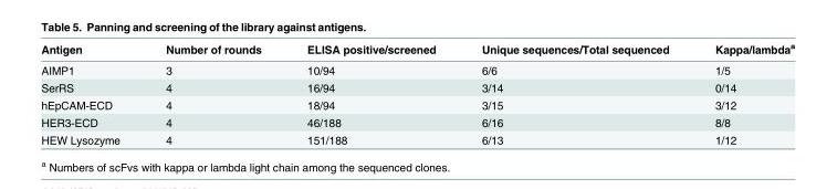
<table><thead><tr><td>Antigen</td><td>Number of rounds</td><td>ELISA positive/screened</td><td>Unique sequences/Total sequenced</td><td>Kappa/lambda<sup>a</sup></td></tr></thead><tbody><tr><td>AIMP1</td><td>3</td><td>10/94</td><td>6/6</td><td>1/5</td></tr><tr><td>SerRS</td><td>4</td><td>16/94</td><td>3/14</td><td>0/14</td></tr><tr><td>hEpCAM-ECD</td><td>4</td><td>18/94</td><td>3/15</td><td>3/12</td></tr><tr><td>HER3-ECD</td><td>4</td><td>46/188</td><td>6/16</td><td>8/8</td></tr><tr><td>HEW Lysozyme</td><td>4</td><td>151/188</td><td>6/13</td><td>1/12</td></tr></tbody></table>